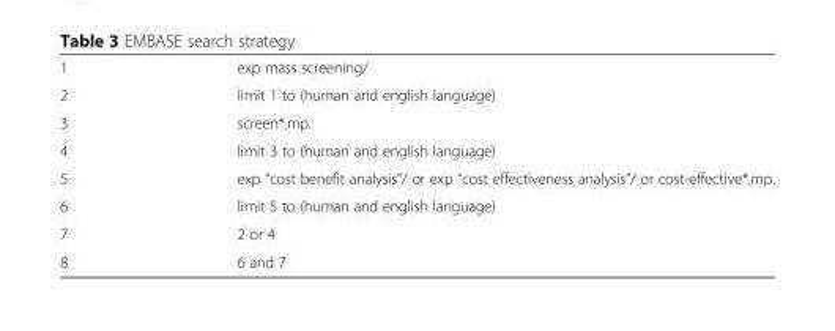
<table><tbody><tr><td>1</td><td>exp mass screening/</td></tr><tr><td>2</td><td>limit 1 to (human and english language)</td></tr><tr><td>3</td><td>screen*.mp.</td></tr><tr><td>4</td><td>limit 3 to (human and english language)</td></tr><tr><td>5</td><td>exp “cost benefit analysis”/ or exp “cost effectiveness analysis”/ or cost-effective*.mp.</td></tr><tr><td>6</td><td>limit 5 to (human and english language)</td></tr><tr><td>7</td><td>2 or 4</td></tr><tr><td>8</td><td>6 and 7</td></tr></tbody></table>